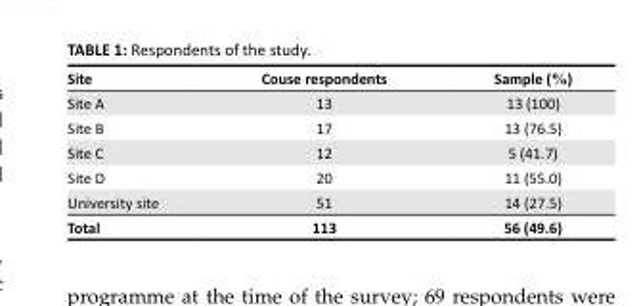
<table><thead><tr><td>Site</td><td>Couse respondents</td><td>Sample (%)</td></tr></thead><tbody><tr><td>Site A</td><td>13</td><td>13 (100)</td></tr><tr><td>Site B</td><td>17</td><td>13 (76.5)</td></tr><tr><td>Site C</td><td>12</td><td>5 (41.7)</td></tr><tr><td>Site D</td><td>20</td><td>11 (55.0)</td></tr><tr><td>University site</td><td>51</td><td>14 (27.5)</td></tr><tr><td>Total</td><td>113</td><td>56 (49.6)</td></tr></tbody></table>